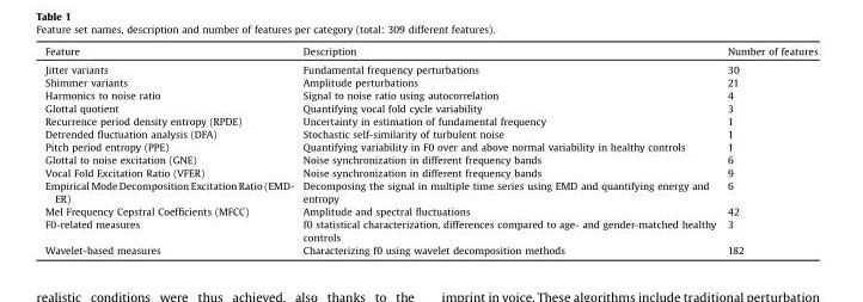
<table><thead><tr><td>Feature</td><td>Description</td><td>Number of features</td></tr></thead><tbody><tr><td>Jitter variants</td><td>Fundamental frequency perturbations</td><td>30</td></tr><tr><td>Shimmer variants</td><td>Amplitude perturbations</td><td>21</td></tr><tr><td>Harmonics to noise ratio</td><td>Signal to noise ratio using autocorrelation</td><td>4</td></tr><tr><td>Glottal quotient</td><td>Quantifying vocal fold cycle variability</td><td>3</td></tr><tr><td>Recurrence period density entropy (RPDE)</td><td>Uncertainty in estimation of fundamental frequency</td><td>1</td></tr><tr><td>Detrended fluctuation analysis (DFA)</td><td>Stochastic self-similarity of turbulent noise</td><td>1</td></tr><tr><td>Pitch period entropy (PPE)</td><td>Quantifying variability in F0 over and above normal variability in healthy controls</td><td>1</td></tr><tr><td>Glottal to noise excitation (GNE)</td><td>Noise synchronization in different frequency bands</td><td>6</td></tr><tr><td>Vocal Fold Excitation Ratio (VFER)</td><td>Noise synchronization in different frequency bands</td><td>9</td></tr><tr><td>Empirical Mode Decomposition Excitation Ratio (EMD- ER)</td><td>Decomposing the signal in multiple time series using EMD and quantifying energy and entropy</td><td>6</td></tr><tr><td>Mel Frequency Cepstral Coefficients (MFCC)</td><td>Amplitude and spectral fluctuations</td><td>42</td></tr><tr><td>F0-related measures</td><td>f0 statistical characterization, differences compared to age- and gender-matched healthy controls</td><td>3</td></tr><tr><td>Wavelet-based measures</td><td>Characterizing f0 using wavelet decomposition methods</td><td>182</td></tr></tbody></table>